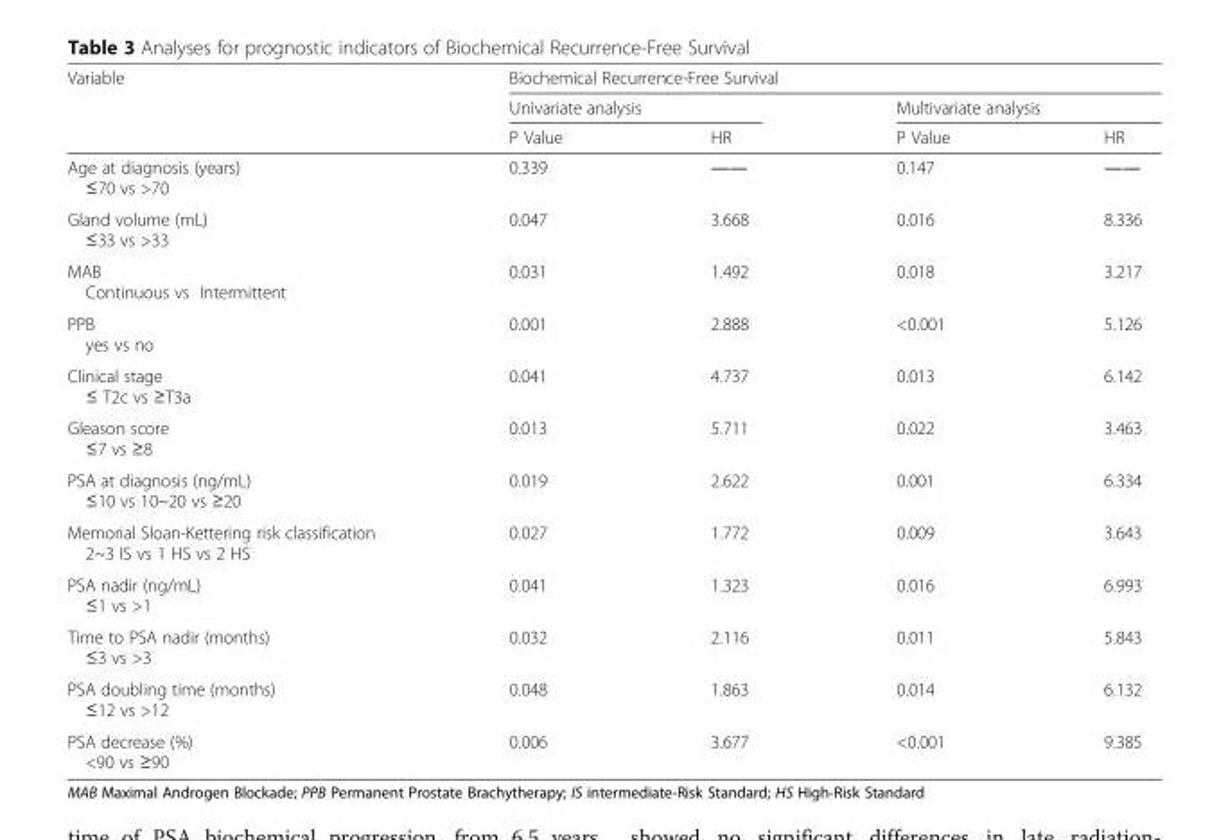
<table><thead><tr><td rowspan="3">Variable</td><td colspan="4">Biochemical Recurrence-Free Survival</td></tr><tr><td colspan="2">Univariate analysis</td><td colspan="2">Multivariate analysis</td></tr><tr><td>P Value</td><td>HR</td><td>P Value</td><td>HR</td></tr></thead><tbody><tr><td>Age at diagnosis (years) ≤70 vs &gt;70</td><td>0.339</td><td>――</td><td>0.147</td><td>――</td></tr><tr><td>Gland volume (mL) ≤33 vs &gt;33</td><td>0.047</td><td>3.668</td><td>0.016</td><td>8.336</td></tr><tr><td>MAB Continuous vs Intermittent</td><td>0.031</td><td>1.492</td><td>0.018</td><td>3.217</td></tr><tr><td>PPB yes vs no</td><td>0.001</td><td>2.888</td><td>&lt;0.001</td><td>5.126</td></tr><tr><td>Clinical stage ≤ T2c vs ≥T3a</td><td>0.041</td><td>4.737</td><td>0.013</td><td>6.142</td></tr><tr><td>Gleason score ≤7 vs ≥8</td><td>0.013</td><td>5.711</td><td>0.022</td><td>3.463</td></tr><tr><td>PSA at diagnosis (ng/mL) ≤10 vs 10~20 vs ≥20</td><td>0.019</td><td>2.622</td><td>0.001</td><td>6.334</td></tr><tr><td>Memorial Sloan-Kettering risk classification 2~3 IS vs 1 HS vs 2 HS</td><td>0.027</td><td>1.772</td><td>0.009</td><td>3.643</td></tr><tr><td>PSA nadir (ng/mL) ≤1 vs &gt;1</td><td>0.041</td><td>1.323</td><td>0.016</td><td>6.993</td></tr><tr><td>Time to PSA nadir (months) ≤3 vs &gt;3</td><td>0.032</td><td>2.116</td><td>0.011</td><td>5.843</td></tr><tr><td>PSA doubling time (months) ≤12 vs &gt;12</td><td>0.048</td><td>1.863</td><td>0.014</td><td>6.132</td></tr><tr><td>PSA decrease (%) &lt;90 vs ≥90</td><td>0.006</td><td>3.677</td><td>&lt;0.001</td><td>9.385</td></tr></tbody></table>